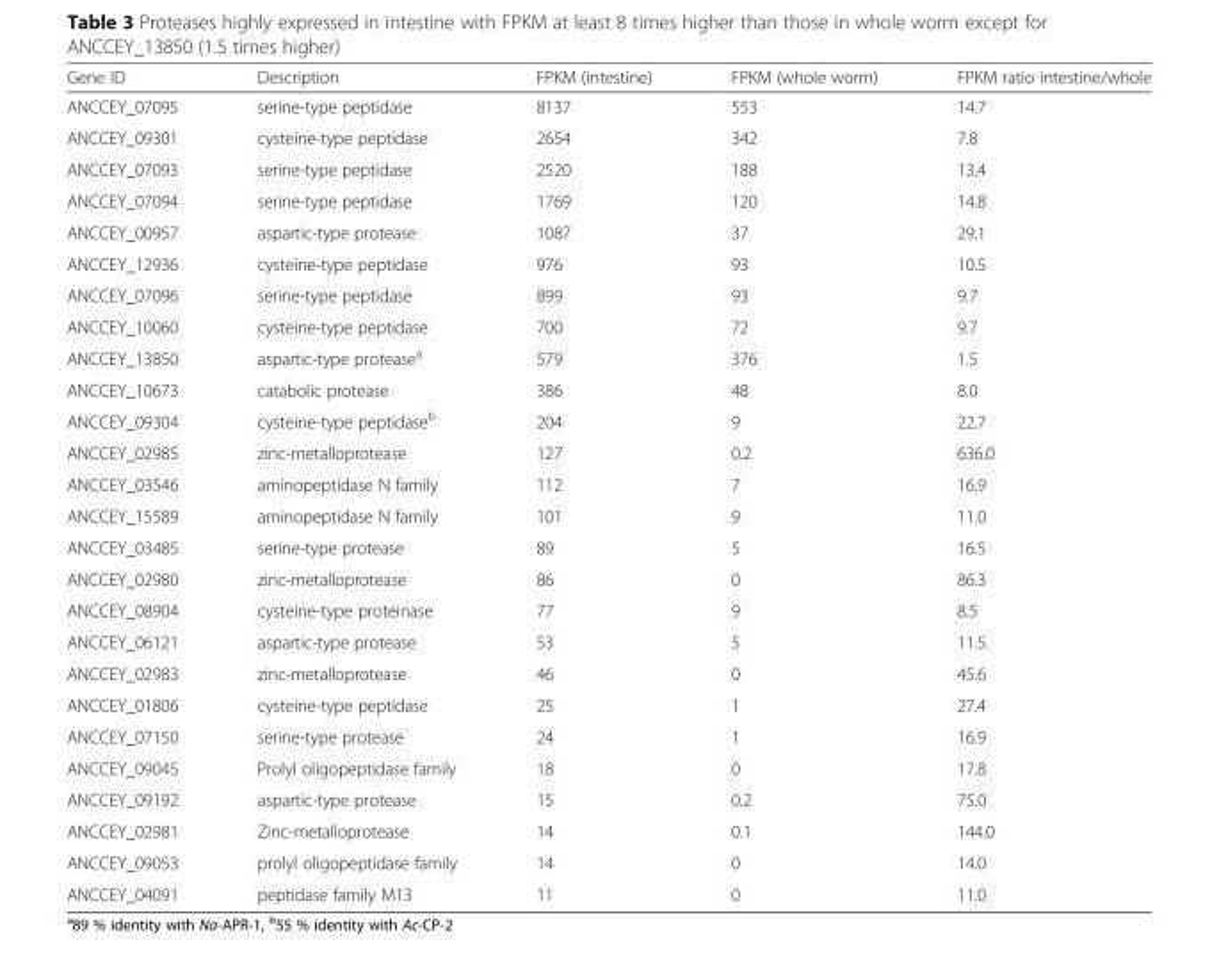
<table><thead><tr><td>Gene ID</td><td>Description</td><td>FPKM (intestine)</td><td>FPKM (whole worm)</td><td>FPKM ratio intestine/whole</td></tr></thead><tbody><tr><td>ANCCEY_07095</td><td>serine-type peptidase</td><td>8137</td><td>553</td><td>14.7</td></tr><tr><td>ANCCEY_09301</td><td>cysteine-type peptidase</td><td>2654</td><td>342</td><td>7.8</td></tr><tr><td>ANCCEY_07093</td><td>serine-type peptidase</td><td>2520</td><td>188</td><td>13.4</td></tr><tr><td>ANCCEY_07094</td><td>serine-type peptidase</td><td>1769</td><td>120</td><td>14.8</td></tr><tr><td>ANCCEY_00957</td><td>aspartic-type protease</td><td>1087</td><td>37</td><td>29.1</td></tr><tr><td>ANCCEY_12936</td><td>cysteine-type peptidase</td><td>976</td><td>93</td><td>10.5</td></tr><tr><td>ANCCEY_07096</td><td>serine-type peptidase</td><td>899</td><td>93</td><td>9.7</td></tr><tr><td>ANCCEY_10060</td><td>cysteine-type peptidase</td><td>700</td><td>72</td><td>9.7</td></tr><tr><td>ANCCEY_13850</td><td>aspartic-type protease<sup>a</sup></td><td>579</td><td>376</td><td>1.5</td></tr><tr><td>ANCCEY_10673</td><td>catabolic protease</td><td>386</td><td>48</td><td>8.0</td></tr><tr><td>ANCCEY_09304</td><td>cysteine-type peptidase<sup>b</sup></td><td>204</td><td>9</td><td>22.7</td></tr><tr><td>ANCCEY_02985</td><td>zinc-metalloprotease</td><td>127</td><td>0.2</td><td>636.0</td></tr><tr><td>ANCCEY_03546</td><td>aminopeptidase N family</td><td>112</td><td>7</td><td>16.9</td></tr><tr><td>ANCCEY_15589</td><td>aminopeptidase N family</td><td>101</td><td>9</td><td>11.0</td></tr><tr><td>ANCCEY_03485</td><td>serine-type protease</td><td>89</td><td>5</td><td>16.5</td></tr><tr><td>ANCCEY_02980</td><td>zinc-metalloprotease</td><td>86</td><td>0</td><td>86.3</td></tr><tr><td>ANCCEY_08904</td><td>cysteine-type proteinase</td><td>77</td><td>9</td><td>8.5</td></tr><tr><td>ANCCEY_06121</td><td>aspartic-type protease</td><td>53</td><td>5</td><td>11.5</td></tr><tr><td>ANCCEY_02983</td><td>zinc-metalloprotease</td><td>46</td><td>0</td><td>45.6</td></tr><tr><td>ANCCEY_01806</td><td>cysteine-type peptidase</td><td>25</td><td>1</td><td>27.4</td></tr><tr><td>ANCCEY_07150</td><td>serine-type protease</td><td>24</td><td>1</td><td>16.9</td></tr><tr><td>ANCCEY_09045</td><td>Prolyl oligopeptidase family</td><td>18</td><td>0</td><td>17.8</td></tr><tr><td>ANCCEY_09192</td><td>aspartic-type protease</td><td>15</td><td>0.2</td><td>75.0</td></tr><tr><td>ANCCEY_02981</td><td>Zinc-metalloprotease</td><td>14</td><td>0.1</td><td>144.0</td></tr><tr><td>ANCCEY_09053</td><td>prolyl oligopeptidase family</td><td>14</td><td>0</td><td>14.0</td></tr><tr><td>ANCCEY_04091</td><td>peptidase family M13</td><td>11</td><td>0</td><td>11.0</td></tr></tbody></table>